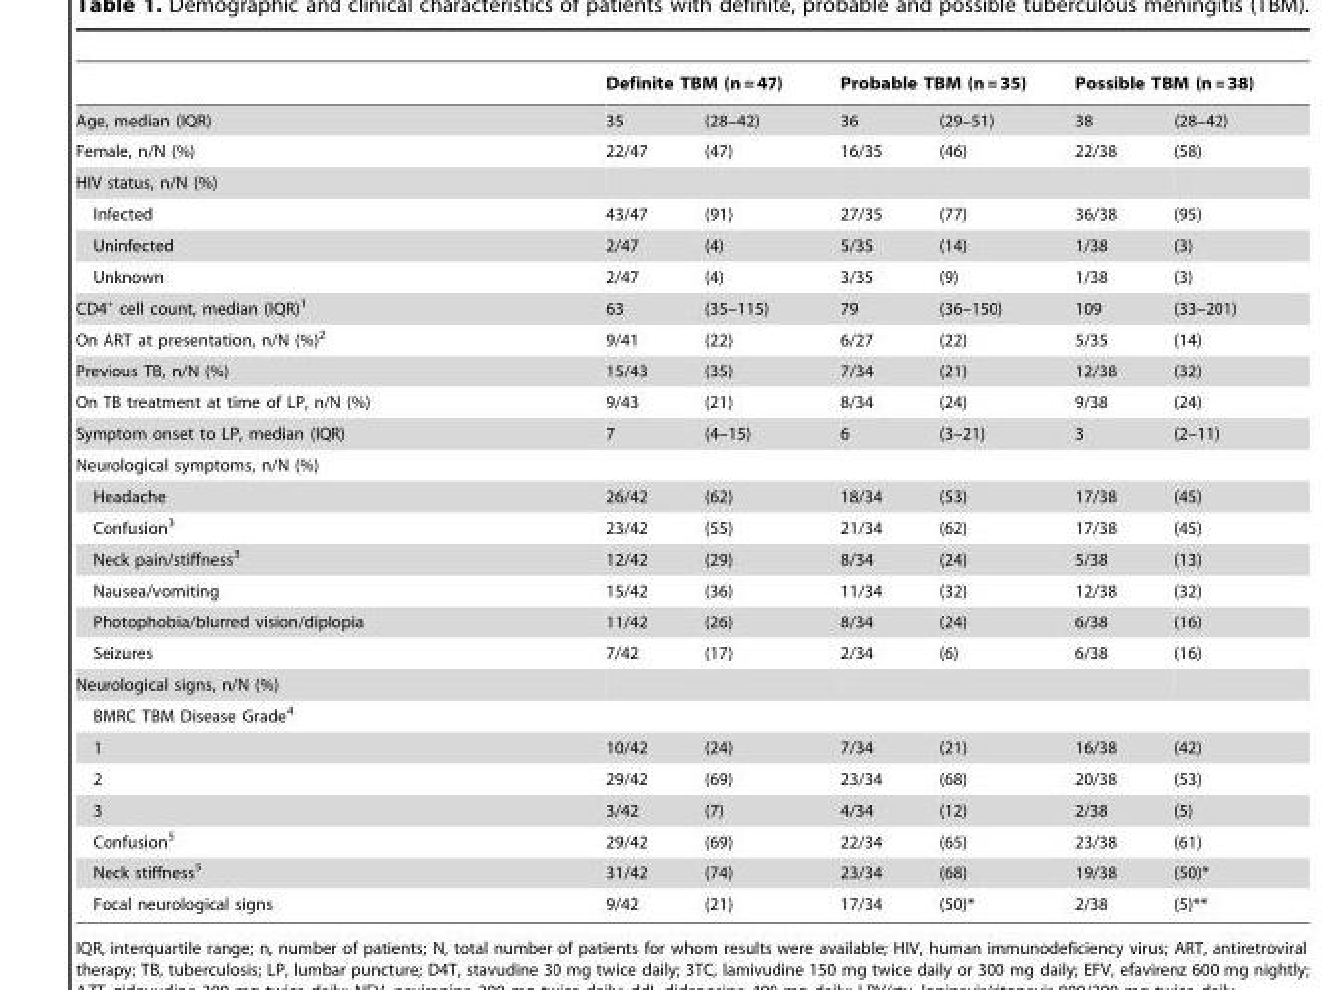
<table><thead><tr><td rowspan="2">Age, median (IQR)</td><td colspan="2">Definite TBM (n = 47)</td><td colspan="2">Probable TBM (n = 35)</td><td colspan="2">Possible TBM (n = 38)</td></tr><tr><td>35</td><td>(28–42)</td><td>36</td><td>(29–51)</td><td>38</td><td>(28–42)</td></tr></thead><tbody><tr><td>Female, n/N (%)</td><td>22/47</td><td>(47)</td><td>16/35</td><td>(46)</td><td>22/38</td><td>(58)</td></tr><tr><td colspan="7">HIV status, n/N (%)</td></tr><tr><td>Infected</td><td>43/47</td><td>(91)</td><td>27/35</td><td>(77)</td><td>36/38</td><td>(95)</td></tr><tr><td>Uninfected</td><td>2/47</td><td>(4)</td><td>5/35</td><td>(14)</td><td>1/38</td><td>(3)</td></tr><tr><td>Unknown</td><td>2/47</td><td>(4)</td><td>3/35</td><td>(9)</td><td>1/38</td><td>(3)</td></tr><tr><td>CD4<sup>+</sup> cell count, median (IQR)<sup>1</sup></td><td>63</td><td>(35–115)</td><td>79</td><td>(36–150)</td><td>109</td><td>(33–201)</td></tr><tr><td>On ART at presentation, n/N (%)<sup>2</sup></td><td>9/41</td><td>(22)</td><td>6/27</td><td>(22)</td><td>5/35</td><td>(14)</td></tr><tr><td>Previous TB, n/N (%)</td><td>15/43</td><td>(35)</td><td>7/34</td><td>(21)</td><td>12/38</td><td>(32)</td></tr><tr><td>On TB treatment at time of LP, n/N (%)</td><td>9/43</td><td>(21)</td><td>8/34</td><td>(24)</td><td>9/38</td><td>(24)</td></tr><tr><td>Symptom onset to LP, median (IQR)</td><td>7</td><td>(4–15)</td><td>6</td><td>(3–21)</td><td>3</td><td>(2–11)</td></tr><tr><td colspan="7">Neurological symptoms, n/N (%)</td></tr><tr><td>Headache</td><td>26/42</td><td>(62)</td><td>18/34</td><td>(53)</td><td>17/38</td><td>(45)</td></tr><tr><td>Confusion<sup>3</sup></td><td>23/42</td><td>(55)</td><td>21/34</td><td>(62)</td><td>17/38</td><td>(45)</td></tr><tr><td>Neck pain/stiffness<sup>3</sup></td><td>12/42</td><td>(29)</td><td>8/34</td><td>(24)</td><td>5/38</td><td>(13)</td></tr><tr><td>Nausea/vomiting</td><td>15/42</td><td>(36)</td><td>11/34</td><td>(32)</td><td>12/38</td><td>(32)</td></tr><tr><td>Photophobia/blurred vision/diplopia</td><td>11/42</td><td>(26)</td><td>8/34</td><td>(24)</td><td>6/38</td><td>(16)</td></tr><tr><td>Seizures</td><td>7/42</td><td>(17)</td><td>2/34</td><td>(6)</td><td>6/38</td><td>(16)</td></tr><tr><td colspan="7">Neurological signs, n/N (%)</td></tr><tr><td colspan="7">BMRC TBM Disease Grade<sup>4</sup></td></tr><tr><td>1</td><td>10/42</td><td>(24)</td><td>7/34</td><td>(21)</td><td>16/38</td><td>(42)</td></tr><tr><td>2</td><td>29/42</td><td>(69)</td><td>23/34</td><td>(68)</td><td>20/38</td><td>(53)</td></tr><tr><td>3</td><td>3/42</td><td>(7)</td><td>4/34</td><td>(12)</td><td>2/38</td><td>(5)</td></tr><tr><td>Confusion<sup>5</sup></td><td>29/42</td><td>(69)</td><td>22/34</td><td>(65)</td><td>23/38</td><td>(61)</td></tr><tr><td>Neck stiffness<sup>5</sup></td><td>31/42</td><td>(74)</td><td>23/34</td><td>(68)</td><td>19/38</td><td>(50)*</td></tr><tr><td>Focal neurological signs</td><td>9/42</td><td>(21)</td><td>17/34</td><td>(50)*</td><td>2/38</td><td>(5)**</td></tr></tbody></table>